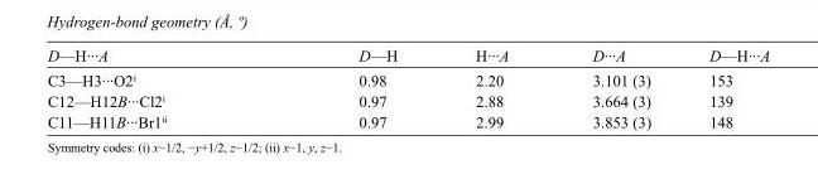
<table><tbody><tr><td>D—H···A</td><td>D—H</td><td>H···A</td><td>D···A</td><td>D—H···A</td></tr><tr><td>C3—H3···O2<sup>i</sup></td><td>0.98</td><td>2.20</td><td>3.101 (3)</td><td>153</td></tr><tr><td>C12—H12B···Cl2<sup>i</sup></td><td>0.97</td><td>2.88</td><td>3.664 (3)</td><td>139</td></tr><tr><td>C11—H11B···Br1<sup>ii</sup></td><td>0.97</td><td>2.99</td><td>3.853 (3)</td><td>148</td></tr></tbody></table>